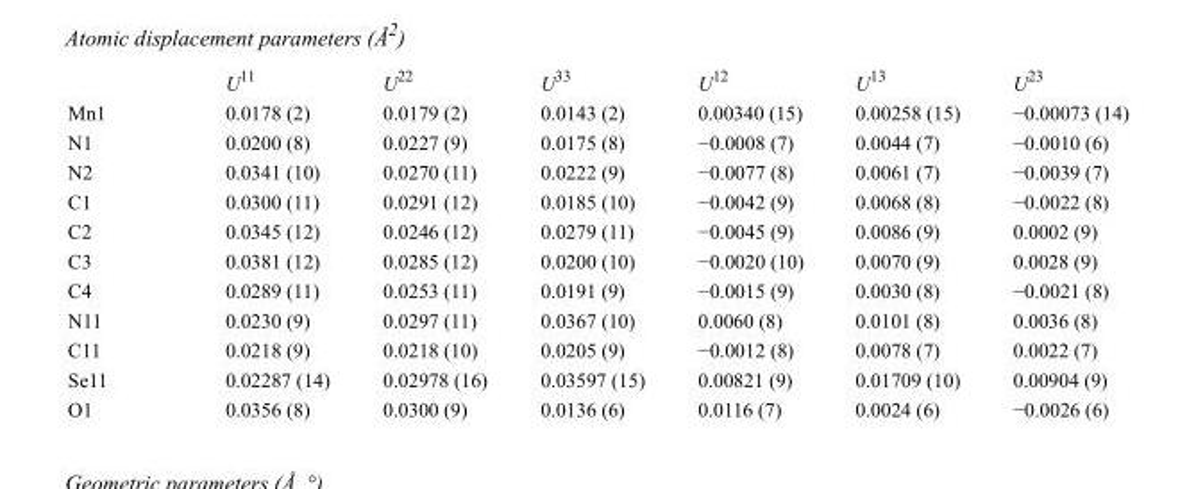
<table><thead><tr><td></td><td>U<sup>11</sup></td><td>U<sup>22</sup></td><td>U<sup>33</sup></td><td>U<sup>12</sup></td><td>U<sup>13</sup></td><td>U<sup>23</sup></td></tr></thead><tbody><tr><td>Mn1</td><td>0.0178 (2)</td><td>0.0179 (2)</td><td>0.0143 (2)</td><td>0.00340 (15)</td><td>0.00258 (15)</td><td>−0.00073 (14)</td></tr><tr><td>N1</td><td>0.0200 (8)</td><td>0.0227 (9)</td><td>0.0175 (8)</td><td>−0.0008 (7)</td><td>0.0044 (7)</td><td>−0.0010 (6)</td></tr><tr><td>N2</td><td>0.0341 (10)</td><td>0.0270 (11)</td><td>0.0222 (9)</td><td>−0.0077 (8)</td><td>0.0061 (7)</td><td>−0.0039 (7)</td></tr><tr><td>C1</td><td>0.0300 (11)</td><td>0.0291 (12)</td><td>0.0185 (10)</td><td>−0.0042 (9)</td><td>0.0068 (8)</td><td>−0.0022 (8)</td></tr><tr><td>C2</td><td>0.0345 (12)</td><td>0.0246 (12)</td><td>0.0279 (11)</td><td>−0.0045 (9)</td><td>0.0086 (9)</td><td>0.0002 (9)</td></tr><tr><td>C3</td><td>0.0381 (12)</td><td>0.0285 (12)</td><td>0.0200 (10)</td><td>−0.0020 (10)</td><td>0.0070 (9)</td><td>0.0028 (9)</td></tr><tr><td>C4</td><td>0.0289 (11)</td><td>0.0253 (11)</td><td>0.0191 (9)</td><td>−0.0015 (9)</td><td>0.0030 (8)</td><td>−0.0021 (8)</td></tr><tr><td>N11</td><td>0.0230 (9)</td><td>0.0297 (11)</td><td>0.0367 (10)</td><td>0.0060 (8)</td><td>0.0101 (8)</td><td>0.0036 (8)</td></tr><tr><td>C11</td><td>0.0218 (9)</td><td>0.0218 (10)</td><td>0.0205 (9)</td><td>−0.0012 (8)</td><td>0.0078 (7)</td><td>0.0022 (7)</td></tr><tr><td>Se11</td><td>0.02287 (14)</td><td>0.02978 (16)</td><td>0.03597 (15)</td><td>0.00821 (9)</td><td>0.01709 (10)</td><td>0.00904 (9)</td></tr><tr><td>O1</td><td>0.0356 (8)</td><td>0.0300 (9)</td><td>0.0136 (6)</td><td>0.0116 (7)</td><td>0.0024 (6)</td><td>−0.0026 (6)</td></tr></tbody></table>